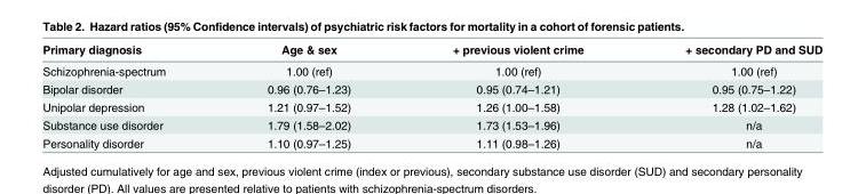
<table><thead><tr><td>Primary diagnosis</td><td>Age &amp; sex</td><td>+ previous violent crime</td><td>+ secondary PD and SUD</td></tr></thead><tbody><tr><td>Schizophrenia-spectrum</td><td>1.00 (ref)</td><td>1.00 (ref)</td><td>1.00 (ref)</td></tr><tr><td>Bipolar disorder</td><td>0.96 (0.76–1.23)</td><td>0.95 (0.74–1.21)</td><td>0.95 (0.75–1.22)</td></tr><tr><td>Unipolar depression</td><td>1.21 (0.97–1.52)</td><td>1.26 (1.00–1.58)</td><td>1.28 (1.02–1.62)</td></tr><tr><td>Substance use disorder</td><td>1.79 (1.58–2.02)</td><td>1.73 (1.53–1.96)</td><td>n/a</td></tr><tr><td>Personality disorder</td><td>1.10 (0.97–1.25)</td><td>1.11 (0.98–1.26)</td><td>n/a</td></tr></tbody></table>